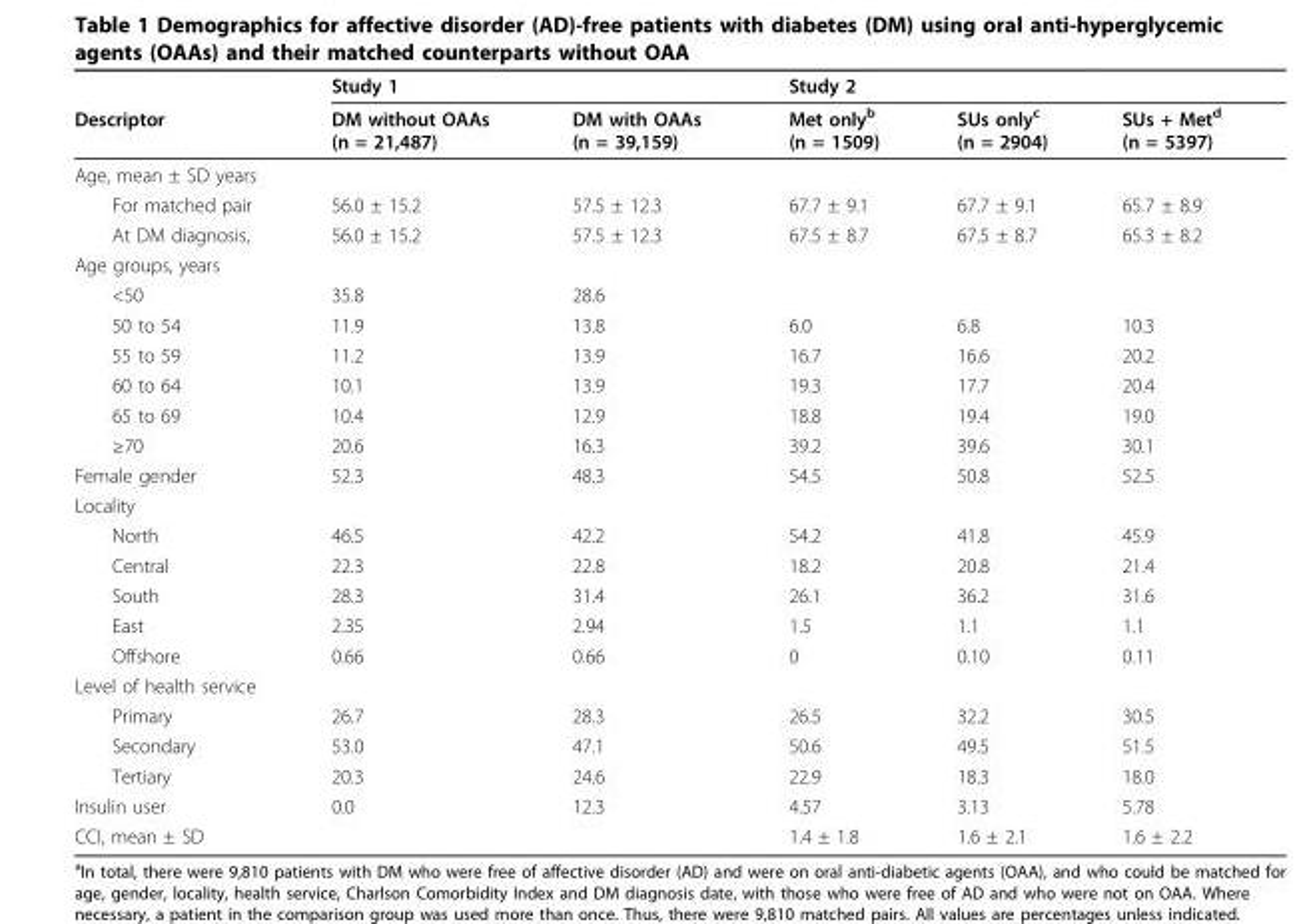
<table><thead><tr><td rowspan="2">Descriptor</td><td colspan="2">Study 1</td><td colspan="3">Study 2</td></tr><tr><td>DM without OAAs (n = 21,487)</td><td>DM with OAAs (n = 39,159)</td><td>Met only<sup>b</sup> (n = 1509)</td><td>SUs only<sup>c</sup> (n = 2904)</td><td>SUs + Met<sup>d</sup> (n = 5397)</td></tr></thead><tbody><tr><td colspan="6">Age, mean ± SD years</td></tr><tr><td>For matched pair</td><td>56.0 ± 15.2</td><td>57.5 ± 12.3</td><td>67.7 ± 9.1</td><td>67.7 ± 9.1</td><td>65.7 ± 8.9</td></tr><tr><td>At DM diagnosis,</td><td>56.0 ± 15.2</td><td>57.5 ± 12.3</td><td>67.5 ± 8.7</td><td>67.5 ± 8.7</td><td>65.3 ± 8.2</td></tr><tr><td colspan="6">Age groups, years</td></tr><tr><td>&lt;50</td><td>35.8</td><td>28.6</td><td></td><td></td><td></td></tr><tr><td>50 to 54</td><td>11.9</td><td>13.8</td><td>6.0</td><td>6.8</td><td>10.3</td></tr><tr><td>55 to 59</td><td>11.2</td><td>13.9</td><td>16.7</td><td>16.6</td><td>20.2</td></tr><tr><td>60 to 64</td><td>10.1</td><td>13.9</td><td>19.3</td><td>17.7</td><td>20.4</td></tr><tr><td>65 to 69</td><td>10.4</td><td>12.9</td><td>18.8</td><td>19.4</td><td>19.0</td></tr><tr><td>≥70</td><td>20.6</td><td>16.3</td><td>39.2</td><td>39.6</td><td>30.1</td></tr><tr><td>Female gender</td><td>52.3</td><td>48.3</td><td>54.5</td><td>50.8</td><td>52.5</td></tr><tr><td colspan="6">Locality</td></tr><tr><td>North</td><td>46.5</td><td>42.2</td><td>54.2</td><td>41.8</td><td>45.9</td></tr><tr><td>Central</td><td>22.3</td><td>22.8</td><td>18.2</td><td>20.8</td><td>21.4</td></tr><tr><td>South</td><td>28.3</td><td>31.4</td><td>26.1</td><td>36.2</td><td>31.6</td></tr><tr><td>East</td><td>2.35</td><td>2.94</td><td>1.5</td><td>1.1</td><td>1.1</td></tr><tr><td>Offshore</td><td>0.66</td><td>0.66</td><td>0</td><td>0.10</td><td>0.11</td></tr><tr><td colspan="6">Level of health service</td></tr><tr><td>Primary</td><td>26.7</td><td>28.3</td><td>26.5</td><td>32.2</td><td>30.5</td></tr><tr><td>Secondary</td><td>53.0</td><td>47.1</td><td>50.6</td><td>49.5</td><td>51.5</td></tr><tr><td>Tertiary</td><td>20.3</td><td>24.6</td><td>22.9</td><td>18.3</td><td>18.0</td></tr><tr><td>Insulin user</td><td>0.0</td><td>12.3</td><td>4.57</td><td>3.13</td><td>5.78</td></tr><tr><td>CCI, mean ± SD</td><td></td><td></td><td>1.4 ± 1.8</td><td>1.6 ± 2.1</td><td>1.6 ± 2.2</td></tr></tbody></table>